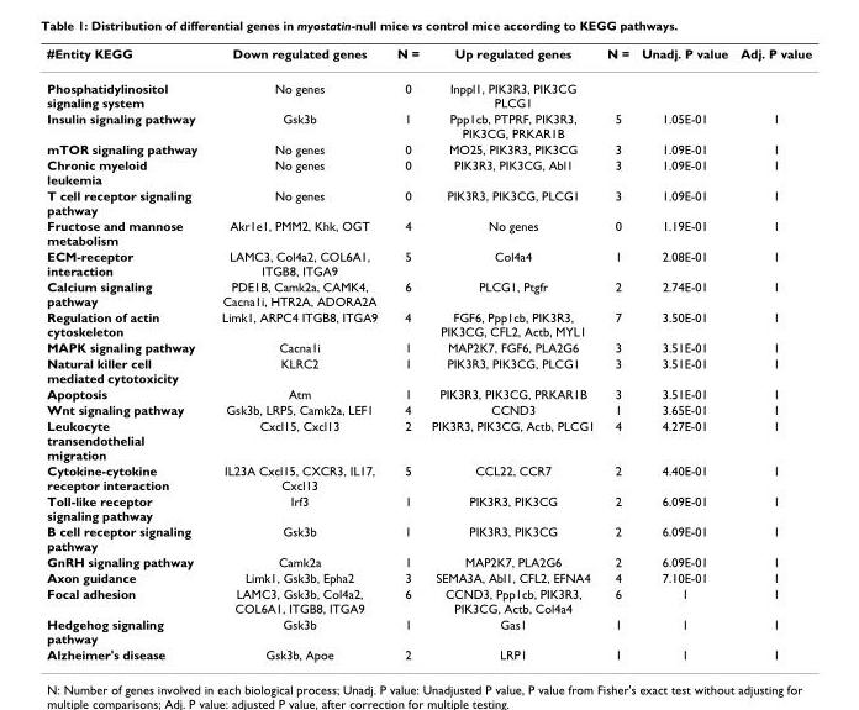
<table><thead><tr><td>#Entity KEGG</td><td>Down regulated genes</td><td>N =</td><td>Up regulated genes</td><td>N =</td><td>Unadj. P value</td><td>Adj. P value</td></tr></thead><tbody><tr><td>Phosphatidylinositol signaling system</td><td>No genes</td><td>0</td><td>Inppl1, PIK3R3, PIK3CG PLCG1</td><td></td><td></td><td></td></tr><tr><td>Insulin signaling pathway</td><td>Gsk3b</td><td>1</td><td>Ppp1cb, PTPRF, PIK3R3, PIK3CG, PRKAR1B</td><td>5</td><td>1.05E-01</td><td>1</td></tr><tr><td>mTOR signaling pathway</td><td>No genes</td><td>0</td><td>MO25, PIK3R3, PIK3CG</td><td>3</td><td>1.09E-01</td><td>1</td></tr><tr><td>Chronic myeloid leukemia</td><td>No genes</td><td>0</td><td>PIK3R3, PIK3CG, Abl1</td><td>3</td><td>1.09E-01</td><td>1</td></tr><tr><td>T cell receptor signaling pathway</td><td>No genes</td><td>0</td><td>PIK3R3, PIK3CG, PLCG1</td><td>3</td><td>1.09E-01</td><td>1</td></tr><tr><td>Fructose and mannose metabolism</td><td>Akr1e1, PMM2, Khk, OGT</td><td>4</td><td>No genes</td><td>0</td><td>1.19E-01</td><td>1</td></tr><tr><td>ECM-receptor interaction</td><td>LAMC3, Col4a2, COL6A1, ITGB8, ITGA9</td><td>5</td><td>Col4a4</td><td>1</td><td>2.08E-01</td><td>1</td></tr><tr><td>Calcium signaling pathway</td><td>PDE1B, Camk2a, CAMK4, Cacna1i, HTR2A, ADORA2A</td><td>6</td><td>PLCG1, Ptgfr</td><td>2</td><td>2.74E-01</td><td>1</td></tr><tr><td>Regulation of actin cytoskeleton</td><td>Limk1, ARPC4 ITGB8, ITGA9</td><td>4</td><td>FGF6, Ppp1cb, PIK3R3, PIK3CG, CFL2, Actb, MYL1</td><td>7</td><td>3.50E-01</td><td>1</td></tr><tr><td>MAPK signaling pathway</td><td>Cacna1i</td><td>1</td><td>MAP2K7, FGF6, PLA2G6</td><td>3</td><td>3.51E-01</td><td>1</td></tr><tr><td>Natural killer cell mediated cytotoxicity</td><td>KLRC2</td><td>1</td><td>PIK3R3, PIK3CG, PLCG1</td><td>3</td><td>3.51E-01</td><td>1</td></tr><tr><td>Apoptosis</td><td>Atm</td><td>1</td><td>PIK3R3, PIK3CG, PRKAR1B</td><td>3</td><td>3.51E-01</td><td>1</td></tr><tr><td>Wnt signaling pathway</td><td>Gsk3b, LRP5, Camk2a, LEF1</td><td>4</td><td>CCND3</td><td>1</td><td>3.65E-01</td><td>1</td></tr><tr><td>Leukocyte transendothelial migration</td><td>Cxcl15, Cxcl13</td><td>2</td><td>PIK3R3, PIK3CG, Actb, PLCG1</td><td>4</td><td>4.27E-01</td><td>1</td></tr><tr><td>Cytokine-cytokine receptor interaction</td><td>IL23A Cxcl15, CXCR3, IL17, Cxcl13</td><td>5</td><td>CCL22, CCR7</td><td>2</td><td>4.40E-01</td><td>1</td></tr><tr><td>Toll-like receptor signaling pathway</td><td>Irf3</td><td>1</td><td>PIK3R3, PIK3CG</td><td>2</td><td>6.09E-01</td><td>1</td></tr><tr><td>B cell receptor signaling pathway</td><td>Gsk3b</td><td>1</td><td>PIK3R3, PIK3CG</td><td>2</td><td>6.09E-01</td><td>1</td></tr><tr><td>GnRH signaling pathway</td><td>Camk2a</td><td>1</td><td>MAP2K7, PLA2G6</td><td>2</td><td>6.09E-01</td><td>1</td></tr><tr><td>Axon guidance</td><td>Limk1, Gsk3b, Epha2</td><td>3</td><td>SEMA3A, Abl1, CFL2, EFNA4</td><td>4</td><td>7.10E-01</td><td>1</td></tr><tr><td>Focal adhesion</td><td>LAMC3, Gsk3b, Col4a2, COL6A1, ITGB8, ITGA9</td><td>6</td><td>CCND3, Ppp1cb, PIK3R3, PIK3CG, Actb, Col4a4</td><td>6</td><td>1</td><td>1</td></tr><tr><td>Hedgehog signaling pathway</td><td>Gsk3b</td><td>1</td><td>Gas1</td><td>1</td><td>1</td><td>1</td></tr><tr><td>Alzheimer&#x27;s disease</td><td>Gsk3b, Apoe</td><td>2</td><td>LRP1</td><td>1</td><td>1</td><td>1</td></tr></tbody></table>